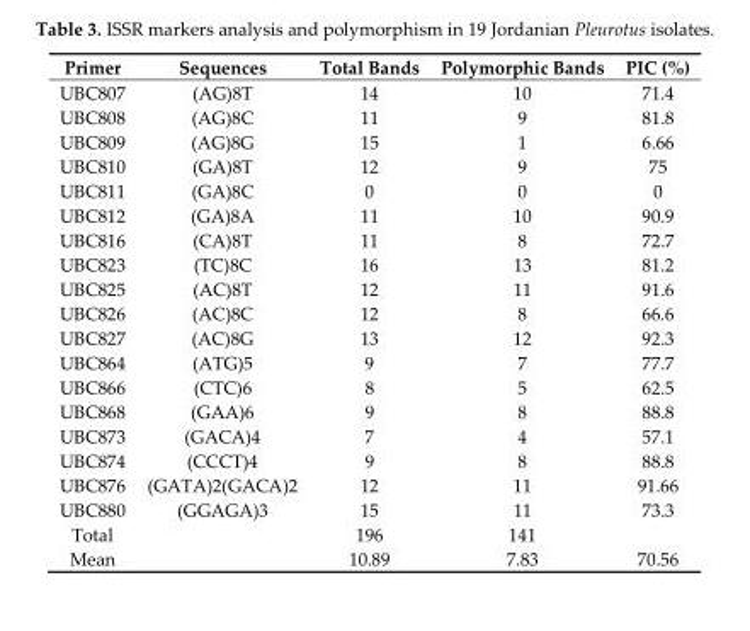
<table><thead><tr><td>Primer</td><td>Sequences</td><td>Total Bands</td><td>Polymorphic Bands</td><td>PIC (%)</td></tr></thead><tbody><tr><td>UBC807</td><td>(AG)8T</td><td>14</td><td>10</td><td>71.4</td></tr><tr><td>UBC808</td><td>(AG)8C</td><td>11</td><td>9</td><td>81.8</td></tr><tr><td>UBC809</td><td>(AG)8G</td><td>15</td><td>1</td><td>6.66</td></tr><tr><td>UBC810</td><td>(GA)8T</td><td>12</td><td>9</td><td>75</td></tr><tr><td>UBC811</td><td>(GA)8C</td><td>0</td><td>0</td><td>0</td></tr><tr><td>UBC812</td><td>(GA)8A</td><td>11</td><td>10</td><td>90.9</td></tr><tr><td>UBC816</td><td>(CA)8T</td><td>11</td><td>8</td><td>72.7</td></tr><tr><td>UBC823</td><td>(TC)8C</td><td>16</td><td>13</td><td>81.2</td></tr><tr><td>UBC825</td><td>(AC)8T</td><td>12</td><td>11</td><td>91.6</td></tr><tr><td>UBC826</td><td>(AC)8C</td><td>12</td><td>8</td><td>66.6</td></tr><tr><td>UBC827</td><td>(AC)8G</td><td>13</td><td>12</td><td>92.3</td></tr><tr><td>UBC864</td><td>(ATG)5</td><td>9</td><td>7</td><td>77.7</td></tr><tr><td>UBC866</td><td>(CTC)6</td><td>8</td><td>5</td><td>62.5</td></tr><tr><td>UBC868</td><td>(GAA)6</td><td>9</td><td>8</td><td>88.8</td></tr><tr><td>UBC873</td><td>(GACA)4</td><td>7</td><td>4</td><td>57.1</td></tr><tr><td>UBC874</td><td>(CCCT)4</td><td>9</td><td>8</td><td>88.8</td></tr><tr><td>UBC876</td><td>(GATA)2(GACA)2</td><td>12</td><td>11</td><td>91.66</td></tr><tr><td>UBC880</td><td>(GGAGA)3</td><td>15</td><td>11</td><td>73.3</td></tr><tr><td>Total</td><td></td><td>196</td><td>141</td><td></td></tr><tr><td>Mean</td><td></td><td>10.89</td><td>7.83</td><td>70.56</td></tr></tbody></table>